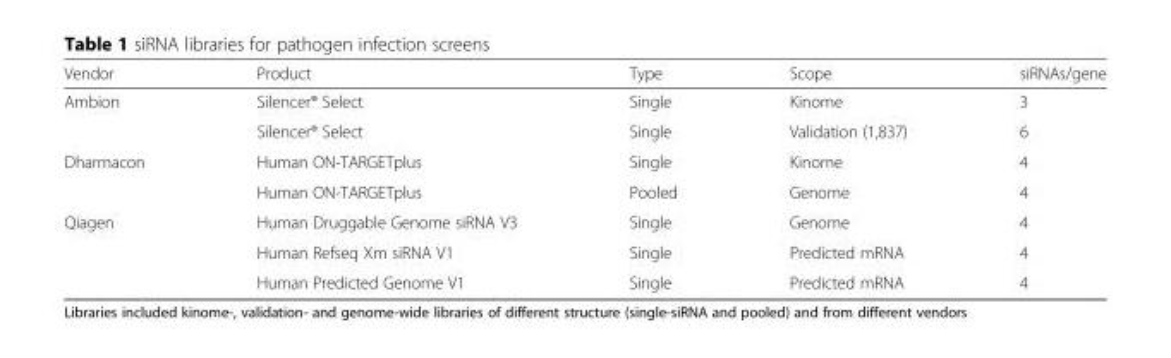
<table><thead><tr><td>Vendor</td><td>Product</td><td>Type</td><td>Scope</td><td>siRNAs/gene</td></tr></thead><tbody><tr><td rowspan="2">Ambion</td><td>Silencer® Select</td><td>Single</td><td>Kinome</td><td>3</td></tr><tr><td>Silencer® Select</td><td>Single</td><td>Validation (1,837)</td><td>6</td></tr><tr><td rowspan="2">Dharmacon</td><td>Human ON-TARGETplus</td><td>Single</td><td>Kinome</td><td>4</td></tr><tr><td>Human ON-TARGETplus</td><td>Pooled</td><td>Genome</td><td>4</td></tr><tr><td rowspan="3">Qiagen</td><td>Human Druggable Genome siRNA V3</td><td>Single</td><td>Genome</td><td>4</td></tr><tr><td>Human Refseq Xm siRNA V1</td><td>Single</td><td>Predicted mRNA</td><td>4</td></tr><tr><td>Human Predicted Genome V1</td><td>Single</td><td>Predicted mRNA</td><td>4</td></tr></tbody></table>